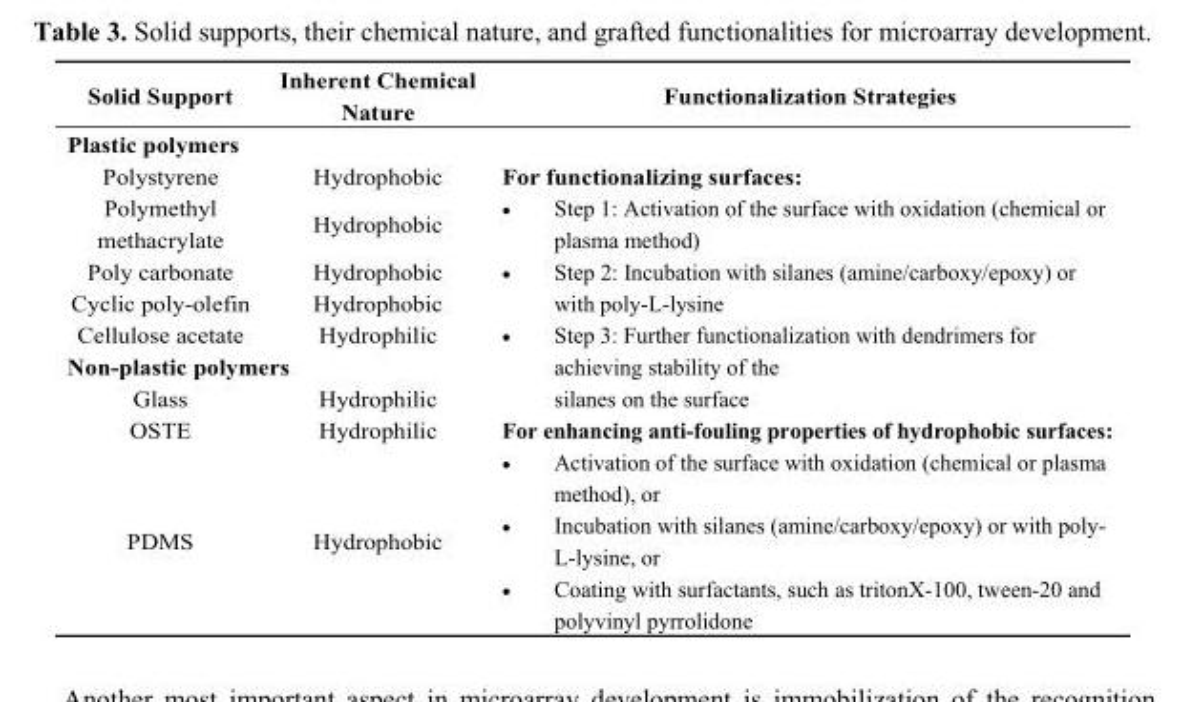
<table><thead><tr><td>Solid Support</td><td>Inherent Chemical Nature</td><td>Functionalization Strategies</td></tr></thead><tbody><tr><td colspan="3">Plastic polymers</td></tr><tr><td>Polystyrene</td><td>Hydrophobic</td><td rowspan="9">For functionalizing surfaces: • Step 1: Activation of the surface with oxidation (chemical or plasma method) • Step 2: Incubation with silanes (amine/carboxy/epoxy) or with poly-L-lysine • Step 3: Further functionalization with dendrimers for achieving stability of the silanes on the surface For enhancing anti-fouling properties of hydrophobic surfaces: • Activation of the surface with oxidation (chemical or plasma method), or • Incubation with silanes (amine/carboxy/epoxy) or with poly- L-lysine, or • Coating with surfactants, such as tritonX-100, tween-20 and polyvinyl pyrrolidone</td></tr><tr><td>Polymethyl methacrylate</td><td>Hydrophobic</td></tr><tr><td>Poly carbonate</td><td>Hydrophobic</td></tr><tr><td>Cyclic poly-olefin</td><td>Hydrophobic</td></tr><tr><td>Cellulose acetate</td><td>Hydrophilic</td></tr><tr><td colspan="2">Non-plastic polymers</td></tr><tr><td>Glass</td><td>Hydrophilic</td></tr><tr><td>OSTE</td><td>Hydrophilic</td></tr><tr><td>PDMS</td><td>Hydrophobic</td></tr></tbody></table>